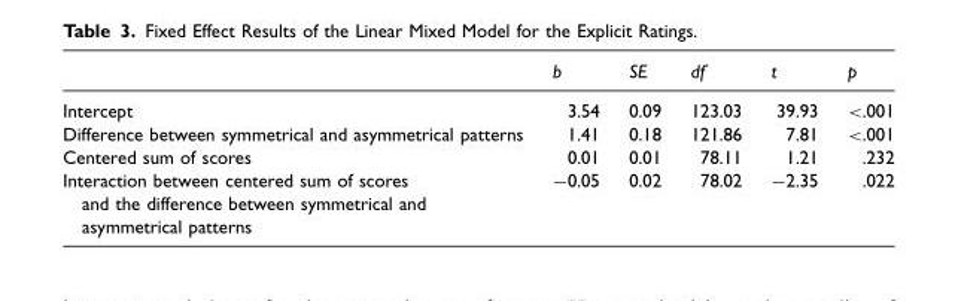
<table><thead><tr><td></td><td>b</td><td>SE</td><td>df</td><td>t</td><td>p</td></tr></thead><tbody><tr><td>Intercept</td><td>3.54</td><td>0.09</td><td>123.03</td><td>39.93</td><td>&lt;.001</td></tr><tr><td>Difference between symmetrical and asymmetrical patterns</td><td>1.41</td><td>0.18</td><td>121.86</td><td>7.81</td><td>&lt;.001</td></tr><tr><td>Centered sum of scores</td><td>0.01</td><td>0.01</td><td>78.11</td><td>1.21</td><td>.232</td></tr><tr><td>Interaction between centered sum of scores and the difference between symmetrical and asymmetrical patterns</td><td>−0.05</td><td>0.02</td><td>78.02</td><td>−2.35</td><td>.022</td></tr></tbody></table>